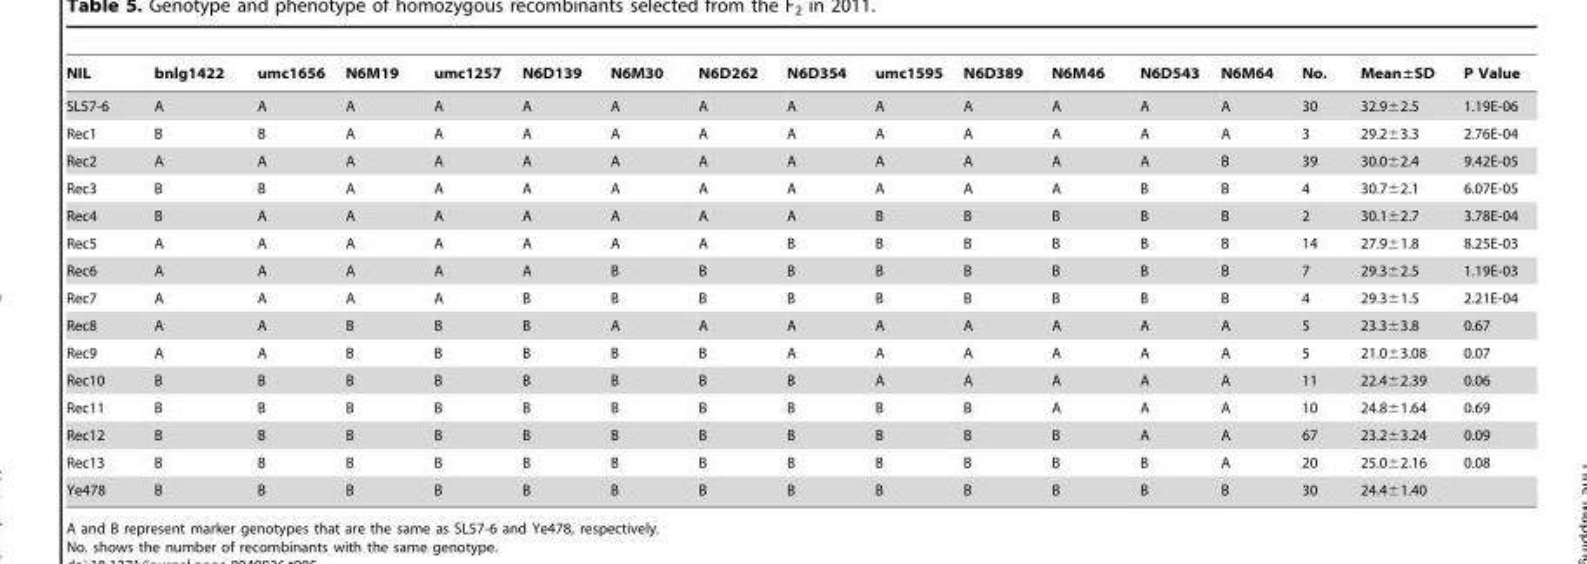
<table><thead><tr><td>NIL</td><td>bnlg1422</td><td>umc1656</td><td>N6M19</td><td>umc1257</td><td>N6D139</td><td>N6M30</td><td>N6D262</td><td>N6D354</td><td>umc1595</td><td>N6D389</td><td>N6M46</td><td>N6D543</td><td>N6M64</td><td>No.</td><td>Mean±SD</td><td>P Value</td></tr></thead><tbody><tr><td>SL57-6</td><td>A</td><td>A</td><td>A</td><td>A</td><td>A</td><td>A</td><td>A</td><td>A</td><td>A</td><td>A</td><td>A</td><td>A</td><td>A</td><td>30</td><td>32.9±2.5</td><td>1.19E-06</td></tr><tr><td>Rec1</td><td>B</td><td>B</td><td>A</td><td>A</td><td>A</td><td>A</td><td>A</td><td>A</td><td>A</td><td>A</td><td>A</td><td>A</td><td>A</td><td>3</td><td>29.2±3.3</td><td>2.76E-04</td></tr><tr><td>Rec2</td><td>A</td><td>A</td><td>A</td><td>A</td><td>A</td><td>A</td><td>A</td><td>A</td><td>A</td><td>A</td><td>A</td><td>A</td><td>B</td><td>39</td><td>30.0±2.4</td><td>9.42E-05</td></tr><tr><td>Rec3</td><td>B</td><td>B</td><td>A</td><td>A</td><td>A</td><td>A</td><td>A</td><td>A</td><td>A</td><td>A</td><td>A</td><td>B</td><td>B</td><td>4</td><td>30.7±2.1</td><td>6.07E-05</td></tr><tr><td>Rec4</td><td>B</td><td>A</td><td>A</td><td>A</td><td>A</td><td>A</td><td>A</td><td>A</td><td>B</td><td>B</td><td>B</td><td>B</td><td>B</td><td>2</td><td>30.1±2.7</td><td>3.78E-04</td></tr><tr><td>Rec5</td><td>A</td><td>A</td><td>A</td><td>A</td><td>A</td><td>A</td><td>A</td><td>B</td><td>B</td><td>B</td><td>B</td><td>B</td><td>B</td><td>14</td><td>27.9±1.8</td><td>8.25E-03</td></tr><tr><td>Rec6</td><td>A</td><td>A</td><td>A</td><td>A</td><td>A</td><td>B</td><td>B</td><td>B</td><td>B</td><td>B</td><td>B</td><td>B</td><td>B</td><td>7</td><td>29.3±2.5</td><td>1.19E-03</td></tr><tr><td>Rec7</td><td>A</td><td>A</td><td>A</td><td>A</td><td>B</td><td>B</td><td>B</td><td>B</td><td>B</td><td>B</td><td>B</td><td>B</td><td>B</td><td>4</td><td>29.3±1.5</td><td>2.21E-04</td></tr><tr><td>Rec8</td><td>A</td><td>A</td><td>B</td><td>B</td><td>B</td><td>A</td><td>A</td><td>A</td><td>A</td><td>A</td><td>A</td><td>A</td><td>A</td><td>5</td><td>23.3±3.8</td><td>0.67</td></tr><tr><td>Rec9</td><td>A</td><td>A</td><td>B</td><td>B</td><td>B</td><td>B</td><td>B</td><td>A</td><td>A</td><td>A</td><td>A</td><td>A</td><td>A</td><td>5</td><td>21.0±3.08</td><td>0.07</td></tr><tr><td>Rec10</td><td>B</td><td>B</td><td>B</td><td>B</td><td>B</td><td>B</td><td>B</td><td>B</td><td>A</td><td>A</td><td>A</td><td>A</td><td>A</td><td>11</td><td>22.4±2.39</td><td>0.06</td></tr><tr><td>Rec11</td><td>B</td><td>B</td><td>B</td><td>B</td><td>B</td><td>B</td><td>B</td><td>B</td><td>B</td><td>B</td><td>A</td><td>A</td><td>A</td><td>10</td><td>24.8±1.64</td><td>0.69</td></tr><tr><td>Rec12</td><td>B</td><td>B</td><td>B</td><td>B</td><td>B</td><td>B</td><td>B</td><td>B</td><td>B</td><td>B</td><td>B</td><td>A</td><td>A</td><td>67</td><td>23.2±3.24</td><td>0.09</td></tr><tr><td>Rec13</td><td>B</td><td>B</td><td>B</td><td>B</td><td>B</td><td>B</td><td>B</td><td>B</td><td>B</td><td>B</td><td>B</td><td>B</td><td>A</td><td>20</td><td>25.0±2.16</td><td>0.08</td></tr><tr><td>Ye478</td><td>B</td><td>B</td><td>B</td><td>B</td><td>B</td><td>B</td><td>B</td><td>B</td><td>B</td><td>B</td><td>B</td><td>B</td><td>B</td><td>30</td><td>24.4±1.40</td><td></td></tr></tbody></table>